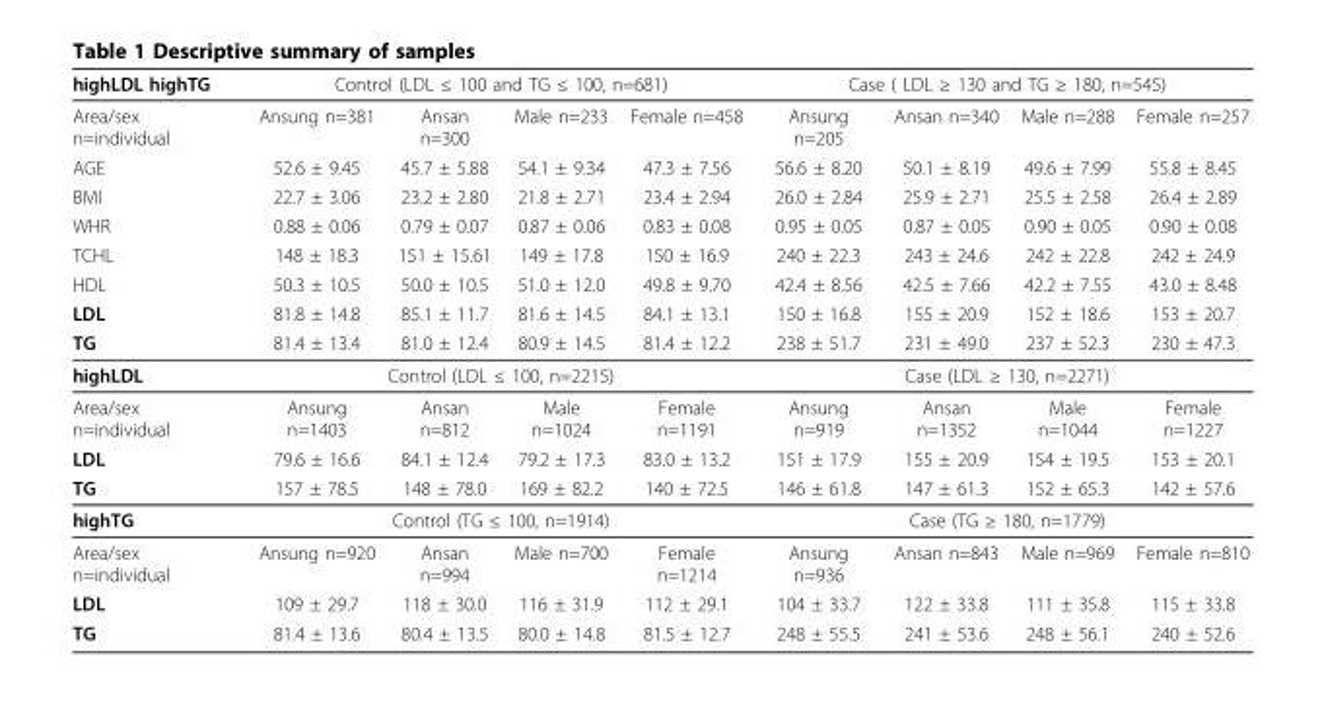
<table><thead><tr><td rowspan="2">highLDL highTG Area/sex n=individual</td><td colspan="4">Control (LDL ≤ 100 and TG ≤ 100, n=681)</td><td colspan="4">Case ( LDL ≥ 130 and TG ≥ 180, n=545)</td></tr><tr><td>Ansung n=381</td><td>Ansan n=300</td><td>Male n=233</td><td>Female n=458</td><td>Ansung n=205</td><td>Ansan n=340</td><td>Male n=288</td><td>Female n=257</td></tr></thead><tbody><tr><td>AGE</td><td>52.6 ± 9.45</td><td>45.7 ± 5.88</td><td>54.1 ± 9.34</td><td>47.3 ± 7.56</td><td>56.6 ± 8.20</td><td>50.1 ± 8.19</td><td>49.6 ± 7.99</td><td>55.8 ± 8.45</td></tr><tr><td>BMI</td><td>22.7 ± 3.06</td><td>23.2 ± 2.80</td><td>21.8 ± 2.71</td><td>23.4 ± 2.94</td><td>26.0 ± 2.84</td><td>25.9 ± 2.71</td><td>25.5 ± 2.58</td><td>26.4 ± 2.89</td></tr><tr><td>WHR</td><td>0.88 ± 0.06</td><td>0.79 ± 0.07</td><td>0.87 ± 0.06</td><td>0.83 ± 0.08</td><td>0.95 ± 0.05</td><td>0.87 ± 0.05</td><td>0.90 ± 0.05</td><td>0.90 ± 0.08</td></tr><tr><td>TCHL</td><td>148 ± 18.3</td><td>151 ± 15.61</td><td>149 ± 17.8</td><td>150 ± 16.9</td><td>240 ± 22.3</td><td>243 ± 24.6</td><td>242 ± 22.8</td><td>242 ± 24.9</td></tr><tr><td>HDL</td><td>50.3 ± 10.5</td><td>50.0 ± 10.5</td><td>51.0 ± 12.0</td><td>49.8 ± 9.70</td><td>42.4 ± 8.56</td><td>42.5 ± 7.66</td><td>42.2 ± 7.55</td><td>43.0 ± 8.48</td></tr><tr><td>LDL</td><td>81.8 ± 14.8</td><td>85.1 ± 11.7</td><td>81.6 ± 14.5</td><td>84.1 ± 13.1</td><td>150 ± 16.8</td><td>155 ± 20.9</td><td>152 ± 18.6</td><td>153 ± 20.7</td></tr><tr><td>TG</td><td>81.4 ± 13.4</td><td>81.0 ± 12.4</td><td>80.9 ± 14.5</td><td>81.4 ± 12.2</td><td>238 ± 51.7</td><td>231 ± 49.0</td><td>237 ± 52.3</td><td>230 ± 47.3</td></tr><tr><td>highLDL</td><td colspan="4">Control (LDL ≤ 100, n=2215)</td><td colspan="4">Case (LDL ≥ 130, n=2271)</td></tr><tr><td>Area/sex n=individual</td><td>Ansung n=1403</td><td>Ansan n=812</td><td>Male n=1024</td><td>Female n=1191</td><td>Ansung n=919</td><td>Ansan n=1352</td><td>Male n=1044</td><td>Female n=1227</td></tr><tr><td>LDL</td><td>79.6 ± 16.6</td><td>84.1 ± 12.4</td><td>79.2 ± 17.3</td><td>83.0 ± 13.2</td><td>151 ± 17.9</td><td>155 ± 20.9</td><td>154 ± 19.5</td><td>153 ± 20.1</td></tr><tr><td>TG</td><td>157 ± 78.5</td><td>148 ± 78.0</td><td>169 ± 82.2</td><td>140 ± 72.5</td><td>146 ± 61.8</td><td>147 ± 61.3</td><td>152 ± 65.3</td><td>142 ± 57.6</td></tr><tr><td>highTG</td><td colspan="4">Control (TG ≤ 100, n=1914)</td><td colspan="4">Case (TG ≥ 180, n=1779)</td></tr><tr><td>Area/sex n=individual</td><td>Ansung n=920</td><td>Ansan n=994</td><td>Male n=700</td><td>Female n=1214</td><td>Ansung n=936</td><td>Ansan n=843</td><td>Male n=969</td><td>Female n=810</td></tr><tr><td>LDL</td><td>109 ± 29.7</td><td>118 ± 30.0</td><td>116 ± 31.9</td><td>112 ± 29.1</td><td>104 ± 33.7</td><td>122 ± 33.8</td><td>111 ± 35.8</td><td>115 ± 33.8</td></tr><tr><td>TG</td><td>81.4 ± 13.6</td><td>80.4 ± 13.5</td><td>80.0 ± 14.8</td><td>81.5 ± 12.7</td><td>248 ± 55.5</td><td>241 ± 53.6</td><td>248 ± 56.1</td><td>240 ± 52.6</td></tr></tbody></table>